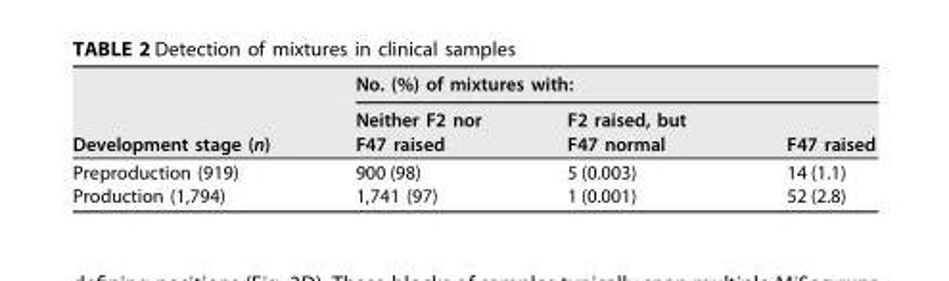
<table><thead><tr><td rowspan="2">Development stage (n)</td><td colspan="3">No. (%) of mixtures with:</td></tr><tr><td>Neither F2 nor F47 raised</td><td>F2 raised, but F47 normal</td><td>F47 raised</td></tr></thead><tbody><tr><td>Preproduction (919)</td><td>900 (98)</td><td>5 (0.003)</td><td>14 (1.1)</td></tr><tr><td>Production (1,794)</td><td>1,741 (97)</td><td>1 (0.001)</td><td>52 (2.8)</td></tr></tbody></table>